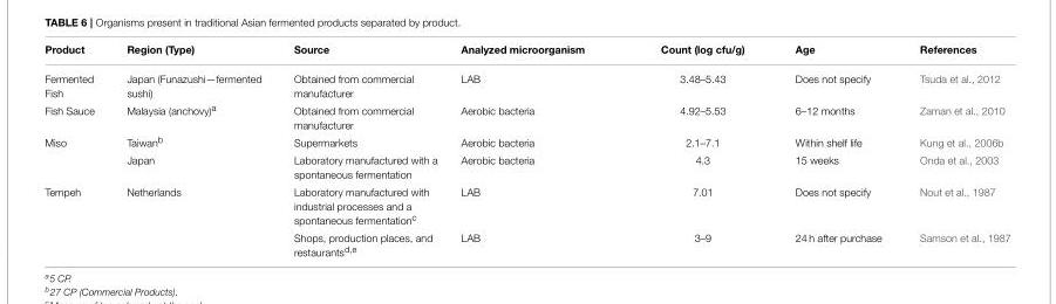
<table><thead><tr><td>Product</td><td>Region (Type)</td><td>Source</td><td>Analyzed microorganism</td><td>Count (log cfu/g)</td><td>Age</td><td>References</td></tr></thead><tbody><tr><td>Fermented Fish</td><td>Japan (Funazushi—fermented sushi)</td><td>Obtained from commercial manufacturer</td><td>LAB</td><td>3.48–5.43</td><td>Does not specify</td><td>Tsuda et al., 2012</td></tr><tr><td>Fish Sauce</td><td>Malaysia (anchovy)<sup>a</sup></td><td>Obtained from commercial manufacturer</td><td>Aerobic bacteria</td><td>4.92–5.53</td><td>6–12 months</td><td>Zaman et al., 2010</td></tr><tr><td rowspan="2">Miso</td><td>Taiwan<sup>b</sup></td><td>Supermarkets</td><td>Aerobic bacteria</td><td>2.1–7.1</td><td>Within shelf life</td><td>Kung et al., 2006b</td></tr><tr><td>Japan</td><td>Laboratory manufactured with a spontaneous fermentation</td><td>Aerobic bacteria</td><td>4.3</td><td>15 weeks</td><td>Onda et al., 2003</td></tr><tr><td rowspan="2">Tempeh</td><td>Netherlands</td><td>Laboratory manufactured with industrial processes and a spontaneous fermentation<sup>c</sup></td><td>LAB</td><td>7.01</td><td>Does not specify</td><td>Nout et al., 1987</td></tr><tr><td></td><td>Shops, production places, and restaurants<sup>d,e</sup></td><td>LAB</td><td>3–9</td><td>24 h after purchase</td><td>Samson et al., 1987</td></tr></tbody></table>